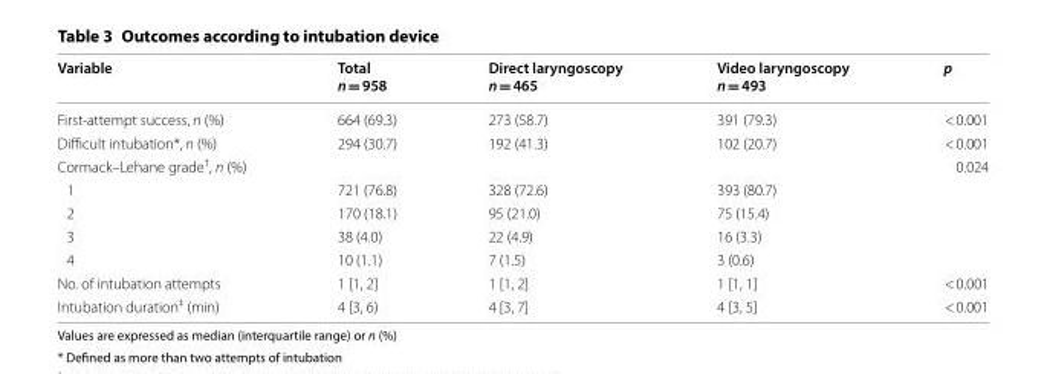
<table><thead><tr><td>Variable</td><td>Total n = 958</td><td>Direct laryngoscopy n = 465</td><td>Video laryngoscopy n = 493</td><td>p</td></tr></thead><tbody><tr><td>First‑attempt success, n (%)</td><td>664 (69.3)</td><td>273 (58.7)</td><td>391 (79.3)</td><td>&lt; 0.001</td></tr><tr><td>Difficult intubation*, n (%)</td><td>294 (30.7)</td><td>192 (41.3)</td><td>102 (20.7)</td><td>&lt; 0.001</td></tr><tr><td>Cormack–Lehane grade<sup>†</sup>, n (%)</td><td></td><td></td><td></td><td>0.024</td></tr><tr><td>1</td><td>721 (76.8)</td><td>328 (72.6)</td><td>393 (80.7)</td><td></td></tr><tr><td>2</td><td>170 (18.1)</td><td>95 (21.0)</td><td>75 (15.4)</td><td></td></tr><tr><td>3</td><td>38 (4.0)</td><td>22 (4.9)</td><td>16 (3.3)</td><td></td></tr><tr><td>4</td><td>10 (1.1)</td><td>7 (1.5)</td><td>3 (0.6)</td><td></td></tr><tr><td>No. of intubation attempts</td><td>1 [1, 2]</td><td>1 [1, 2]</td><td>1 [1, 1]</td><td>&lt; 0.001</td></tr><tr><td>Intubation duration<sup>‡</sup> (min)</td><td>4 [3, 6)</td><td>4 [3, 7]</td><td>4 [3, 5]</td><td>&lt; 0.001</td></tr></tbody></table>